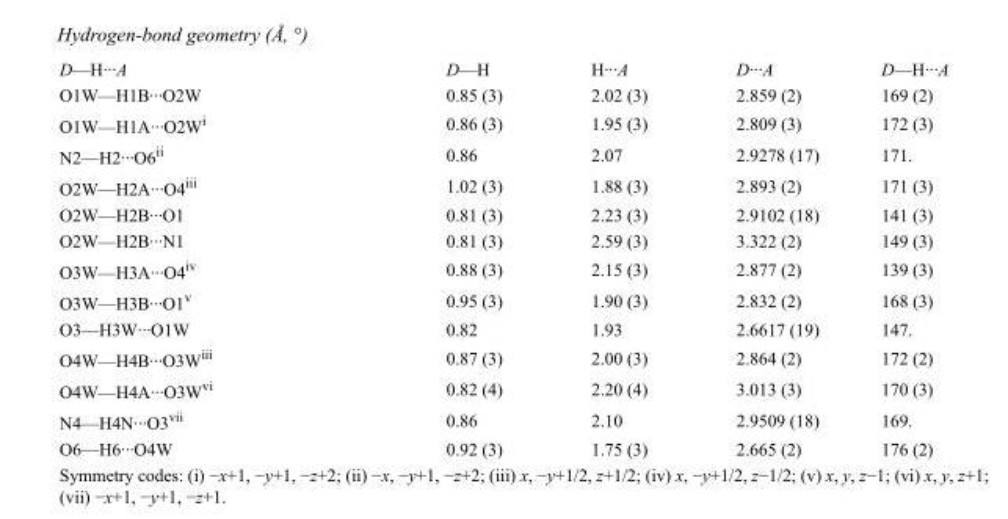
<table><tbody><tr><td>D—H···A</td><td>D—H</td><td>H···A</td><td>D···A</td><td>D—H···A</td></tr><tr><td>O1W—H1B···O2W</td><td>0.85 (3)</td><td>2.02 (3)</td><td>2.859 (2)</td><td>169 (2)</td></tr><tr><td>O1W—H1A···O2W<sup>i</sup></td><td>0.86 (3)</td><td>1.95 (3)</td><td>2.809 (3)</td><td>172 (3)</td></tr><tr><td>N2—H2···O6<sup>ii</sup></td><td>0.86</td><td>2.07</td><td>2.9278 (17)</td><td>171.</td></tr><tr><td>O2W—H2A···O4<sup>iii</sup></td><td>1.02 (3)</td><td>1.88 (3)</td><td>2.893 (2)</td><td>171 (3)</td></tr><tr><td>O2W—H2B···O1</td><td>0.81 (3)</td><td>2.23 (3)</td><td>2.9102 (18)</td><td>141 (3)</td></tr><tr><td>O2W—H2B···N1</td><td>0.81 (3)</td><td>2.59 (3)</td><td>3.322 (2)</td><td>149 (3)</td></tr><tr><td>O3W—H3A···O4<sup>iv</sup></td><td>0.88 (3)</td><td>2.15 (3)</td><td>2.877 (2)</td><td>139 (3)</td></tr><tr><td>O3W—H3B···O1<sup>v</sup></td><td>0.95 (3)</td><td>1.90 (3)</td><td>2.832 (2)</td><td>168 (3)</td></tr><tr><td>O3—H3W···O1W</td><td>0.82</td><td>1.93</td><td>2.6617 (19)</td><td>147.</td></tr><tr><td>O4W—H4B···O3W<sup>iii</sup></td><td>0.87 (3)</td><td>2.00 (3)</td><td>2.864 (2)</td><td>172 (2)</td></tr><tr><td>O4W—H4A···O3W<sup>vi</sup></td><td>0.82 (4)</td><td>2.20 (4)</td><td>3.013 (3)</td><td>170 (3)</td></tr><tr><td>N4—H4N···O3<sup>vii</sup></td><td>0.86</td><td>2.10</td><td>2.9509 (18)</td><td>169.</td></tr><tr><td>O6—H6···O4W</td><td>0.92 (3)</td><td>1.75 (3)</td><td>2.665 (2)</td><td>176 (2)</td></tr></tbody></table>